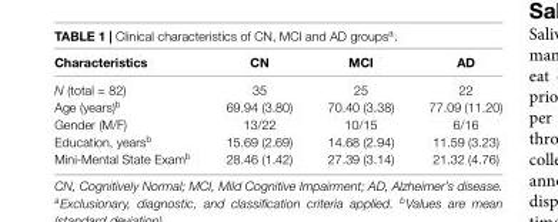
<table><thead><tr><td>Characteristics</td><td>CN</td><td>MCI</td><td>AD</td></tr></thead><tbody><tr><td>N (total = 82)</td><td>35</td><td>25</td><td>22</td></tr><tr><td>Age (years)<sup>b</sup></td><td>69.94 (3.80)</td><td>70.40 (3.38)</td><td>77.09 (11.20)</td></tr><tr><td>Gender (M/F)</td><td>13/22</td><td>10/15</td><td>6/16</td></tr><tr><td>Education, years<sup>b</sup></td><td>15.69 (2.69)</td><td>14.68 (2.94)</td><td>11.59 (3.23)</td></tr><tr><td>Mini-Mental State Exam<sup>b</sup></td><td>28.46 (1.42)</td><td>27.39 (3.14)</td><td>21.32 (4.76)</td></tr></tbody></table>